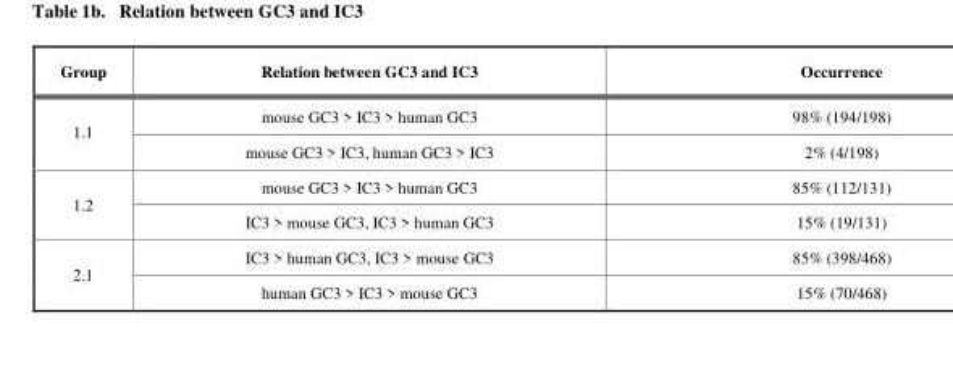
<table><thead><tr><td>Group</td><td>Relation between GC3 and IC3</td><td>Occurrence</td></tr></thead><tbody><tr><td rowspan="2">1.1</td><td>mouse GC3 &gt; IC3 &gt; human GC3</td><td>98% (194/198)</td></tr><tr><td>mouse GC3 &gt; IC3, human GC3 &gt; IC3</td><td>2% (4/198)</td></tr><tr><td rowspan="2">1.2</td><td>mouse GC3 &gt; IC3 &gt; human GC3</td><td>85% (112/131)</td></tr><tr><td>IC3 &gt; mouse GC3, IC3 &gt; human GC3</td><td>15% (19/131)</td></tr><tr><td rowspan="2">2.1</td><td>IC3 &gt; human GC3, IC3 &gt; mouse GC3</td><td>85% (398/468)</td></tr><tr><td>human GC3 &gt; IC3 &gt; mouse GC3</td><td>15% (70/468)</td></tr></tbody></table>